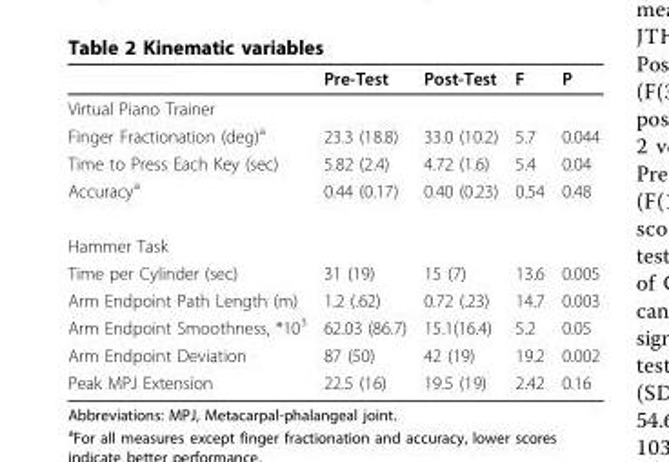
<table><thead><tr><td></td><td>Pre-Test</td><td>Post-Test</td><td>F</td><td>P</td></tr></thead><tbody><tr><td colspan="5">Virtual Piano Trainer</td></tr><tr><td>Finger Fractionation (deg)<sup>a</sup></td><td>23.3 (18.8)</td><td>33.0 (10.2)</td><td>5.7</td><td>0.044</td></tr><tr><td>Time to Press Each Key (sec)</td><td>5.82 (2.4)</td><td>4.72 (1.6)</td><td>5.4</td><td>0.04</td></tr><tr><td>Accuracy<sup>a</sup></td><td>0.44 (0.17)</td><td>0.40 (0.23)</td><td>0.54</td><td>0.48</td></tr><tr><td colspan="5">Hammer Task</td></tr><tr><td>Time per Cylinder (sec)</td><td>31 (19)</td><td>15 (7)</td><td>13.6</td><td>0.005</td></tr><tr><td>Arm Endpoint Path Length (m)</td><td>1.2 (.62)</td><td>0.72 (.23)</td><td>14.7</td><td>0.003</td></tr><tr><td>Arm Endpoint Smoothness, *10<sup>3</sup></td><td>62.03 (86.7)</td><td>15.1(16.4)</td><td>5.2</td><td>0.05</td></tr><tr><td>Arm Endpoint Deviation</td><td>87 (50)</td><td>42 (19)</td><td>19.2</td><td>0.002</td></tr><tr><td>Peak MPJ Extension</td><td>22.5 (16)</td><td>19.5 (19)</td><td>2.42</td><td>0.16</td></tr></tbody></table>